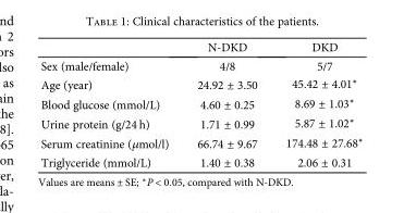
<table><thead><tr><td></td><td>N-DKD</td><td>DKD</td></tr></thead><tbody><tr><td>Sex (male/female)</td><td>4/8</td><td>5/7</td></tr><tr><td>Age (year)</td><td>24.92 ± 3.50</td><td>45.42 ± 4.01∗</td></tr><tr><td>Blood glucose (mmol/L)</td><td>4.60 ± 0.25</td><td>8.69 ± 1.03∗</td></tr><tr><td>Urine protein (g/24 h)</td><td>1.71 ± 0.99</td><td>5.87 ± 1.02∗</td></tr><tr><td>Serum creatinine (μmol/l)</td><td>66.74 ± 9.67</td><td>174.48 ± 27.68∗</td></tr><tr><td>Triglyceride (mmol/L)</td><td>1.40 ± 0.38</td><td>2.06 ± 0.31</td></tr></tbody></table>